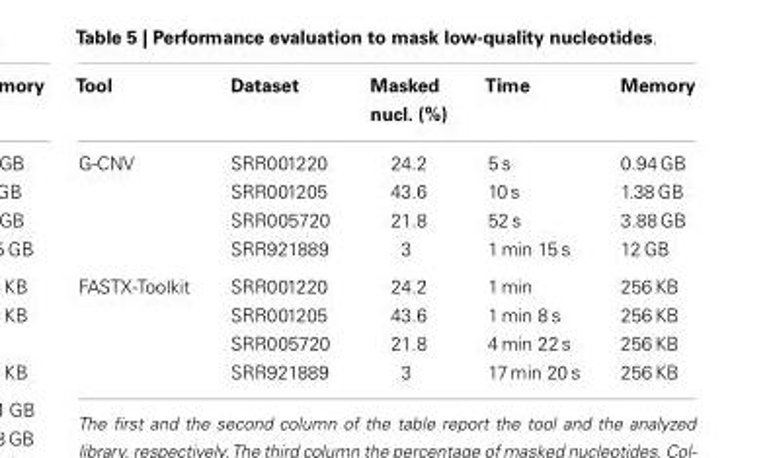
<table><thead><tr><td>Tool</td><td>Dataset</td><td>Masked nucl. (%)</td><td>Time</td><td>Memory</td></tr></thead><tbody><tr><td rowspan="4">G-CNV</td><td>SRR001220</td><td>24.2</td><td>5 s</td><td>0.94 GB</td></tr><tr><td>SRR001205</td><td>43.6</td><td>10 s</td><td>1.38 GB</td></tr><tr><td>SRR005720</td><td>21.8</td><td>52 s</td><td>3.88 GB</td></tr><tr><td>SRR921889</td><td>3</td><td>1 min 15 s</td><td>12 GB</td></tr><tr><td rowspan="4">FASTX-Toolkit</td><td>SRR001220</td><td>24.2</td><td>1 min</td><td>256 KB</td></tr><tr><td>SRR001205</td><td>43.6</td><td>1 min 8 s</td><td>256 KB</td></tr><tr><td>SRR005720</td><td>21.8</td><td>4 min 22 s</td><td>256 KB</td></tr><tr><td>SRR921889</td><td>3</td><td>17 min 20 s</td><td>256 KB</td></tr></tbody></table>